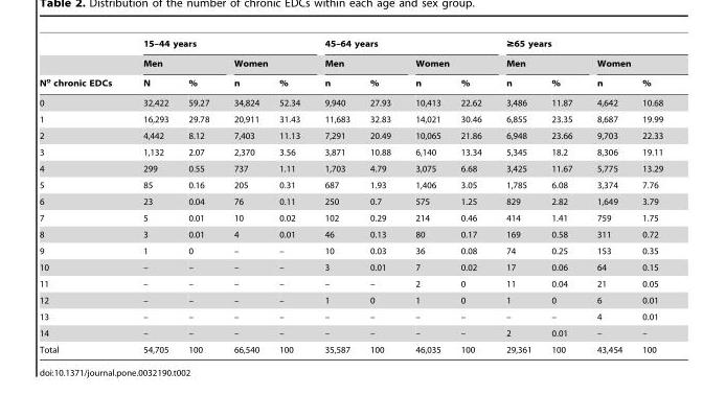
<table><thead><tr><td rowspan="3">N<sup>o_</sup> chronic EDCs</td><td colspan="4">15–44 years</td><td colspan="4">45–64 years</td><td colspan="4">≥65 years</td></tr><tr><td colspan="2">Men</td><td colspan="2">Women</td><td colspan="2">Men</td><td colspan="2">Women</td><td colspan="2">Men</td><td colspan="2">Women</td></tr><tr><td>N</td><td>%</td><td>n</td><td>%</td><td>n</td><td>%</td><td>n</td><td>%</td><td>n</td><td>%</td><td>n</td><td>%</td></tr></thead><tbody><tr><td>0</td><td>32,422</td><td>59.27</td><td>34,824</td><td>52.34</td><td>9,940</td><td>27.93</td><td>10,413</td><td>22.62</td><td>3,486</td><td>11.87</td><td>4,642</td><td>10.68</td></tr><tr><td>1</td><td>16,293</td><td>29.78</td><td>20,911</td><td>31.43</td><td>11,683</td><td>32.83</td><td>14,021</td><td>30.46</td><td>6,855</td><td>23.35</td><td>8,687</td><td>19.99</td></tr><tr><td>2</td><td>4,442</td><td>8.12</td><td>7,403</td><td>11.13</td><td>7,291</td><td>20.49</td><td>10,065</td><td>21.86</td><td>6,948</td><td>23.66</td><td>9,703</td><td>22.33</td></tr><tr><td>3</td><td>1,132</td><td>2.07</td><td>2,370</td><td>3.56</td><td>3,871</td><td>10.88</td><td>6,140</td><td>13.34</td><td>5,345</td><td>18.2</td><td>8,306</td><td>19.11</td></tr><tr><td>4</td><td>299</td><td>0.55</td><td>737</td><td>1.11</td><td>1,703</td><td>4.79</td><td>3,075</td><td>6.68</td><td>3,425</td><td>11.67</td><td>5,775</td><td>13.29</td></tr><tr><td>5</td><td>85</td><td>0.16</td><td>205</td><td>0.31</td><td>687</td><td>1.93</td><td>1,406</td><td>3.05</td><td>1,785</td><td>6.08</td><td>3,374</td><td>7.76</td></tr><tr><td>6</td><td>23</td><td>0.04</td><td>76</td><td>0.11</td><td>250</td><td>0.7</td><td>575</td><td>1.25</td><td>829</td><td>2.82</td><td>1,649</td><td>3.79</td></tr><tr><td>7</td><td>5</td><td>0.01</td><td>10</td><td>0.02</td><td>102</td><td>0.29</td><td>214</td><td>0.46</td><td>414</td><td>1.41</td><td>759</td><td>1.75</td></tr><tr><td>8</td><td>3</td><td>0.01</td><td>4</td><td>0.01</td><td>46</td><td>0.13</td><td>80</td><td>0.17</td><td>169</td><td>0.58</td><td>311</td><td>0.72</td></tr><tr><td>9</td><td>1</td><td>0</td><td>–</td><td>–</td><td>10</td><td>0.03</td><td>36</td><td>0.08</td><td>74</td><td>0.25</td><td>153</td><td>0.35</td></tr><tr><td>10</td><td>–</td><td>–</td><td>–</td><td>–</td><td>3</td><td>0.01</td><td>7</td><td>0.02</td><td>17</td><td>0.06</td><td>64</td><td>0.15</td></tr><tr><td>11</td><td>–</td><td>–</td><td>–</td><td>–</td><td>–</td><td>–</td><td>2</td><td>0</td><td>11</td><td>0.04</td><td>21</td><td>0.05</td></tr><tr><td>12</td><td>–</td><td>–</td><td>–</td><td>–</td><td>1</td><td>0</td><td>1</td><td>0</td><td>1</td><td>0</td><td>6</td><td>0.01</td></tr><tr><td>13</td><td>–</td><td>–</td><td>–</td><td>–</td><td>–</td><td>–</td><td>–</td><td>–</td><td>–</td><td>–</td><td>4</td><td>0.01</td></tr><tr><td>14</td><td>–</td><td>–</td><td>–</td><td>–</td><td>–</td><td>–</td><td>–</td><td>–</td><td>2</td><td>0.01</td><td>–</td><td>–</td></tr><tr><td>Total</td><td>54,705</td><td>100</td><td>66,540</td><td>100</td><td>35,587</td><td>100</td><td>46,035</td><td>100</td><td>29,361</td><td>100</td><td>43,454</td><td>100</td></tr></tbody></table>